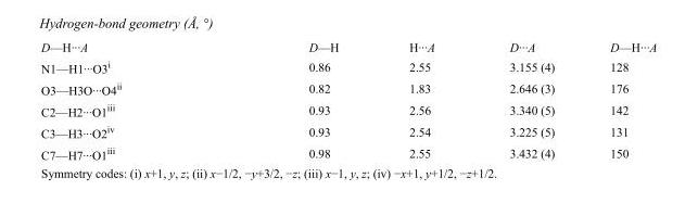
<table><tbody><tr><td>D—H···A</td><td>D—H</td><td>H···A</td><td>D···A</td><td>D—H···A</td></tr><tr><td>N1—H1···O3<sup>i</sup></td><td>0.86</td><td>2.55</td><td>3.155 (4)</td><td>128</td></tr><tr><td>O3—H3O···O4<sup>ii</sup></td><td>0.82</td><td>1.83</td><td>2.646 (3)</td><td>176</td></tr><tr><td>C2—H2···O1<sup>iii</sup></td><td>0.93</td><td>2.56</td><td>3.340 (5)</td><td>142</td></tr><tr><td>C3—H3···O2<sup>iv</sup></td><td>0.93</td><td>2.54</td><td>3.225 (5)</td><td>131</td></tr><tr><td>C7—H7···O1<sup>iii</sup></td><td>0.98</td><td>2.55</td><td>3.432 (4)</td><td>150</td></tr></tbody></table>